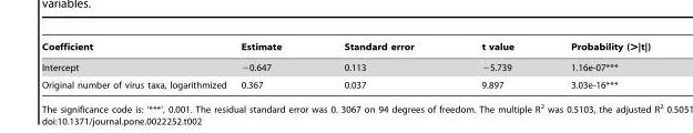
<table><thead><tr><td>Coefficient</td><td>Estimate</td><td>Standard error</td><td>t value</td><td>Probability (&gt;|t|)</td></tr></thead><tbody><tr><td>Intercept</td><td>−0.647</td><td>0.113</td><td>−5.739</td><td>1.16e-07***</td></tr><tr><td>Original number of virus taxa, logarithmized</td><td>0.367</td><td>0.037</td><td>9.897</td><td>3.03e-16***</td></tr></tbody></table>